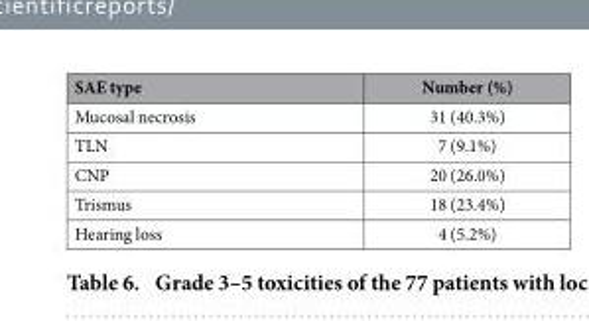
<table><thead><tr><td>SAE type</td><td>Number (%)</td></tr></thead><tbody><tr><td>Mucosal necrosis</td><td>31 (40.3%)</td></tr><tr><td>TLN</td><td>7 (9.1%)</td></tr><tr><td>CNP</td><td>20 (26.0%)</td></tr><tr><td>Trismus</td><td>18 (23.4%)</td></tr><tr><td>Hearing loss</td><td>4 (5.2%)</td></tr></tbody></table>